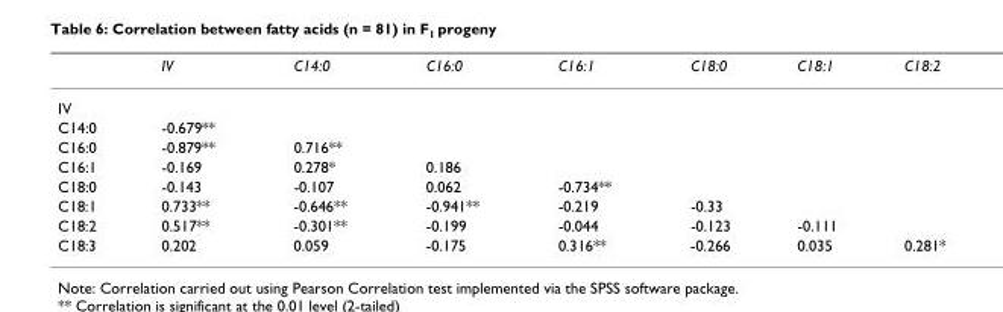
<table><thead><tr><td></td><td>IV</td><td>C14:0</td><td>C16:0</td><td>C16:1</td><td>C18:0</td><td>C18:1</td><td>C18:2</td></tr></thead><tbody><tr><td colspan="8">IV</td></tr><tr><td>C14:0</td><td>-0.679**</td><td></td><td></td><td></td><td></td><td></td><td></td></tr><tr><td>C16:0</td><td>-0.879**</td><td>0.716**</td><td></td><td></td><td></td><td></td><td></td></tr><tr><td>C16:1</td><td>-0.169</td><td>0.278*</td><td>0.186</td><td></td><td></td><td></td><td></td></tr><tr><td>C18:0</td><td>-0.143</td><td>-0.107</td><td>0.062</td><td>-0.734**</td><td></td><td></td><td></td></tr><tr><td>C18:1</td><td>0.733**</td><td>-0.646**</td><td>-0.941**</td><td>-0.219</td><td>-0.33</td><td></td><td></td></tr><tr><td>C18:2</td><td>0.517**</td><td>-0.301**</td><td>-0.199</td><td>-0.044</td><td>-0.123</td><td>-0.111</td><td></td></tr><tr><td>C18:3</td><td>0.202</td><td>0.059</td><td>-0.175</td><td>0.316**</td><td>-0.266</td><td>0.035</td><td>0.281*</td></tr></tbody></table>